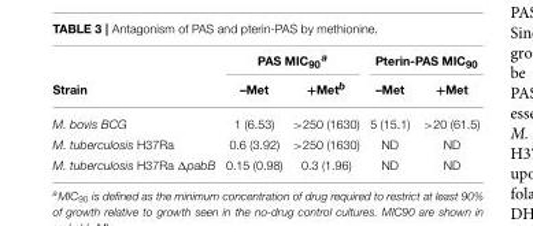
<table><thead><tr><td rowspan="2">Strain</td><td colspan="2">PAS MIC<sub>90</sub><sup>a</sup></td><td colspan="2">Pterin-PAS MIC<sub>90</sub></td></tr><tr><td>–Met</td><td>+Met<sup>b</sup></td><td>–Met</td><td>+Met</td></tr></thead><tbody><tr><td>M. bovis BCG</td><td>1 (6.53)</td><td>&gt;250 (1630)</td><td>5 (15.1)</td><td>&gt;20 (61.5)</td></tr><tr><td>M. tuberculosis H37Ra</td><td>0.6 (3.92)</td><td>&gt;250 (1630)</td><td>ND</td><td>ND</td></tr><tr><td>M. tuberculosis H37Ra ΔpabB</td><td>0.15 (0.98)</td><td>0.3 (1.96)</td><td>ND</td><td>ND</td></tr></tbody></table>